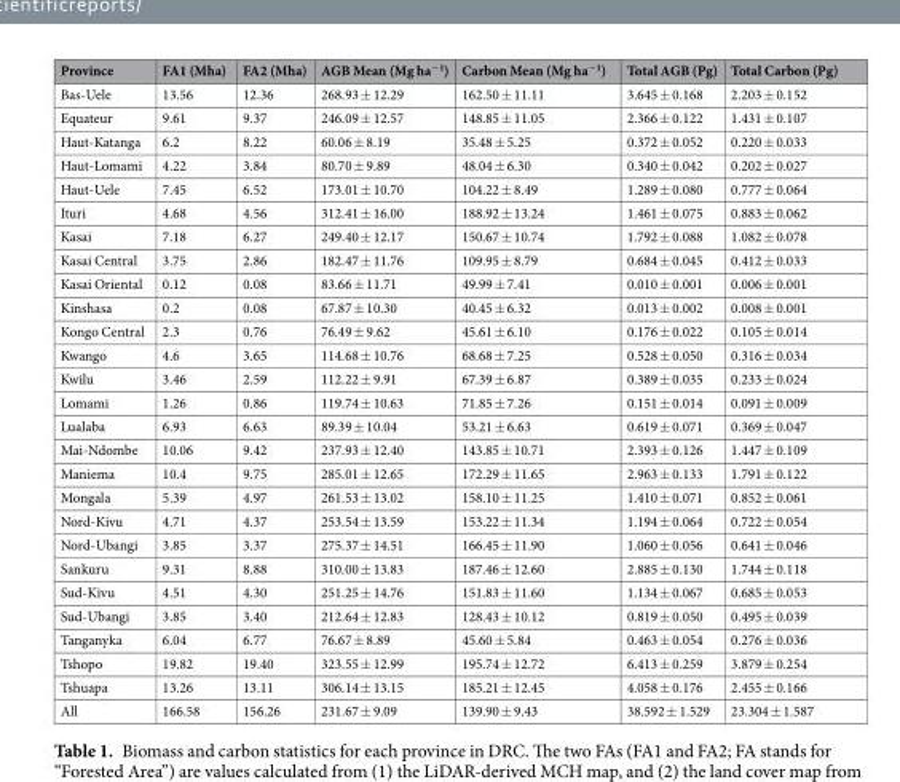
<table><thead><tr><td>Province</td><td>FA1 (Mha)</td><td>FA2 (Mha)</td><td>AGB Mean (Mg ha<sup>−1</sup>)</td><td>Carbon Mean (Mg ha<sup>−1</sup>)</td><td>Total AGB (Pg)</td><td>Total Carbon (Pg)</td></tr></thead><tbody><tr><td>Bas-Uele</td><td>13.56</td><td>12.36</td><td>268.93 ± 12.29</td><td>162.50 ± 11.11</td><td>3.645 ± 0.168</td><td>2.203 ± 0.152</td></tr><tr><td>Equateur</td><td>9.61</td><td>9.37</td><td>246.09 ± 12.57</td><td>148.85 ± 11.05</td><td>2.366 ± 0.122</td><td>1.431 ± 0.107</td></tr><tr><td>Haut-Katanga</td><td>6.2</td><td>8.22</td><td>60.06 ± 8.19</td><td>35.48 ± 5.25</td><td>0.372 ± 0.052</td><td>0.220 ± 0.033</td></tr><tr><td>Haut-Lomami</td><td>4.22</td><td>3.84</td><td>80.70 ± 9.89</td><td>48.04 ± 6.30</td><td>0.340 ± 0.042</td><td>0.202 ± 0.027</td></tr><tr><td>Haut-Uele</td><td>7.45</td><td>6.52</td><td>173.01 ± 10.70</td><td>104.22 ± 8.49</td><td>1.289 ± 0.080</td><td>0.777 ± 0.064</td></tr><tr><td>Ituri</td><td>4.68</td><td>4.56</td><td>312.41 ± 16.00</td><td>188.92 ± 13.24</td><td>1.461 ± 0.075</td><td>0.883 ± 0.062</td></tr><tr><td>Kasai</td><td>7.18</td><td>6.27</td><td>249.40 ± 12.17</td><td>150.67 ± 10.74</td><td>1.792 ± 0.088</td><td>1.082 ± 0.078</td></tr><tr><td>Kasai Central</td><td>3.75</td><td>2.86</td><td>182.47 ± 11.76</td><td>109.95 ± 8.79</td><td>0.684 ± 0.045</td><td>0.412 ± 0.033</td></tr><tr><td>Kasai Oriental</td><td>0.12</td><td>0.08</td><td>83.66 ± 11.71</td><td>49.99 ± 7.41</td><td>0.010 ± 0.001</td><td>0.006 ± 0.001</td></tr><tr><td>Kinshasa</td><td>0.2</td><td>0.08</td><td>67.87 ± 10.30</td><td>40.45 ± 6.32</td><td>0.013 ± 0.002</td><td>0.008 ± 0.001</td></tr><tr><td>Kongo Central</td><td>2.3</td><td>0.76</td><td>76.49 ± 9.62</td><td>45.61 ± 6.10</td><td>0.176 ± 0.022</td><td>0.105 ± 0.014</td></tr><tr><td>Kwango</td><td>4.6</td><td>3.65</td><td>114.68 ± 10.76</td><td>68.68 ± 7.25</td><td>0.528 ± 0.050</td><td>0.316 ± 0.034</td></tr><tr><td>Kwilu</td><td>3.46</td><td>2.59</td><td>112.22 ± 9.91</td><td>67.39 ± 6.87</td><td>0.389 ± 0.035</td><td>0.233 ± 0.024</td></tr><tr><td>Lomami</td><td>1.26</td><td>0.86</td><td>119.74 ± 10.63</td><td>71.85 ± 7.26</td><td>0.151 ± 0.014</td><td>0.091 ± 0.009</td></tr><tr><td>Lualaba</td><td>6.93</td><td>6.63</td><td>89.39 ± 10.04</td><td>53.21 ± 6.63</td><td>0.619 ± 0.071</td><td>0.369 ± 0.047</td></tr><tr><td>Mai-Ndombe</td><td>10.06</td><td>9.42</td><td>237.93 ± 12.40</td><td>143.85 ± 10.71</td><td>2.393 ± 0.126</td><td>1.447 ± 0.109</td></tr><tr><td>Maniema</td><td>10.4</td><td>9.75</td><td>285.01 ± 12.65</td><td>172.29 ± 11.65</td><td>2.963 ± 0.133</td><td>1.791 ± 0.122</td></tr><tr><td>Mongala</td><td>5.39</td><td>4.97</td><td>261.53 ± 13.02</td><td>158.10 ± 11.25</td><td>1.410 ± 0.071</td><td>0.852 ± 0.061</td></tr><tr><td>Nord-Kivu</td><td>4.71</td><td>4.37</td><td>253.54 ± 13.59</td><td>153.22 ± 11.34</td><td>1.194 ± 0.064</td><td>0.722 ± 0.054</td></tr><tr><td>Nord-Ubangi</td><td>3.85</td><td>3.37</td><td>275.37 ± 14.51</td><td>166.45 ± 11.90</td><td>1.060 ± 0.056</td><td>0.641 ± 0.046</td></tr><tr><td>Sankuru</td><td>9.31</td><td>8.88</td><td>310.00 ± 13.83</td><td>187.46 ± 12.60</td><td>2.885 ± 0.130</td><td>1.744 ± 0.118</td></tr><tr><td>Sud-Kivu</td><td>4.51</td><td>4.30</td><td>251.25 ± 14.76</td><td>151.83 ± 11.60</td><td>1.134 ± 0.067</td><td>0.685 ± 0.053</td></tr><tr><td>Sud-Ubangi</td><td>3.85</td><td>3.40</td><td>212.64 ± 12.83</td><td>128.43 ± 10.12</td><td>0.819 ± 0.050</td><td>0.495 ± 0.039</td></tr><tr><td>Tanganyka</td><td>6.04</td><td>6.77</td><td>76.67 ± 8.89</td><td>45.60 ± 5.84</td><td>0.463 ± 0.054</td><td>0.276 ± 0.036</td></tr><tr><td>Tshopo</td><td>19.82</td><td>19.40</td><td>323.55 ± 12.99</td><td>195.74 ± 12.72</td><td>6.413 ± 0.259</td><td>3.879 ± 0.254</td></tr><tr><td>Tshuapa</td><td>13.26</td><td>13.11</td><td>306.14 ± 13.15</td><td>185.21 ± 12.45</td><td>4.058 ± 0.176</td><td>2.455 ± 0.166</td></tr><tr><td>All</td><td>166.58</td><td>156.26</td><td>231.67 ± 9.09</td><td>139.90 ± 9.43</td><td>38.592 ± 1.529</td><td>23.304 ± 1.587</td></tr></tbody></table>